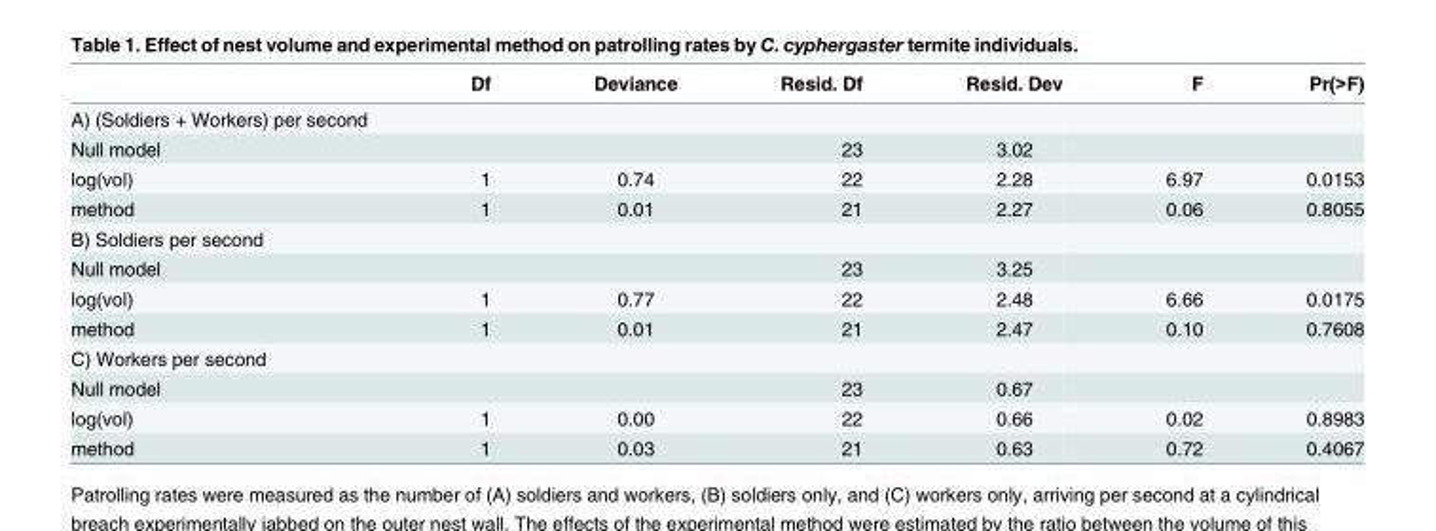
<table><thead><tr><td></td><td>Df</td><td>Deviance</td><td>Resid. Df</td><td>Resid. Dev</td><td>F</td><td>Pr(&gt;F)</td></tr></thead><tbody><tr><td colspan="7">A) (Soldiers + Workers) per second</td></tr><tr><td>Null model</td><td></td><td></td><td>23</td><td>3.02</td><td></td><td></td></tr><tr><td>log(vol)</td><td>1</td><td>0.74</td><td>22</td><td>2.28</td><td>6.97</td><td>0.0153</td></tr><tr><td>method</td><td>1</td><td>0.01</td><td>21</td><td>2.27</td><td>0.06</td><td>0.8055</td></tr><tr><td colspan="7">B) Soldiers per second</td></tr><tr><td>Null model</td><td></td><td></td><td>23</td><td>3.25</td><td></td><td></td></tr><tr><td>log(vol)</td><td>1</td><td>0.77</td><td>22</td><td>2.48</td><td>6.66</td><td>0.0175</td></tr><tr><td>method</td><td>1</td><td>0.01</td><td>21</td><td>2.47</td><td>0.10</td><td>0.7608</td></tr><tr><td colspan="7">C) Workers per second</td></tr><tr><td>Null model</td><td></td><td></td><td>23</td><td>0.67</td><td></td><td></td></tr><tr><td>log(vol)</td><td>1</td><td>0.00</td><td>22</td><td>0.66</td><td>0.02</td><td>0.8983</td></tr><tr><td>method</td><td>1</td><td>0.03</td><td>21</td><td>0.63</td><td>0.72</td><td>0.4067</td></tr></tbody></table>